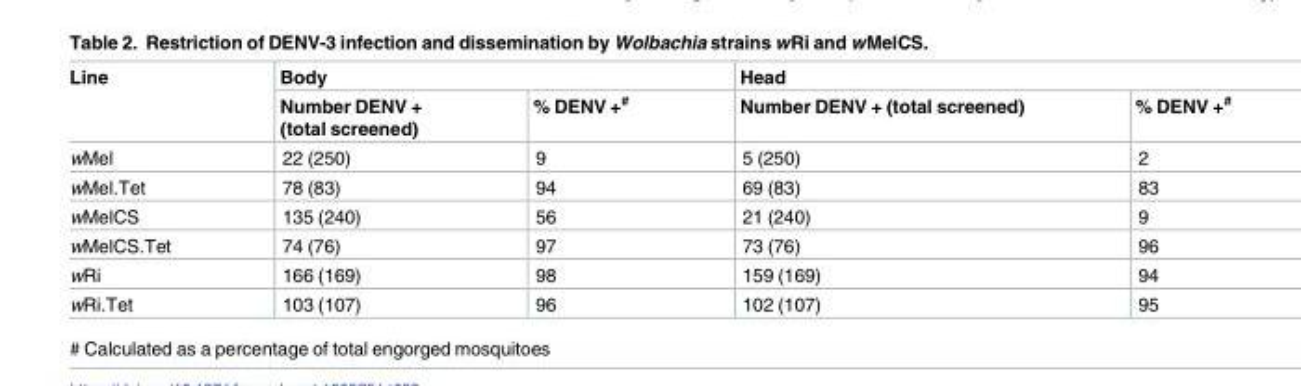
<table><thead><tr><td rowspan="2">Line</td><td colspan="2">Body</td><td colspan="2">Head</td></tr><tr><td>Number DENV + (total screened)</td><td>% DENV +<sup>#</sup></td><td>Number DENV + (total screened)</td><td>% DENV +<sup>#</sup></td></tr></thead><tbody><tr><td>wMel</td><td>22 (250)</td><td>9</td><td>5 (250)</td><td>2</td></tr><tr><td>wMel.Tet</td><td>78 (83)</td><td>94</td><td>69 (83)</td><td>83</td></tr><tr><td>wMelCS</td><td>135 (240)</td><td>56</td><td>21 (240)</td><td>9</td></tr><tr><td>wMelCS.Tet</td><td>74 (76)</td><td>97</td><td>73 (76)</td><td>96</td></tr><tr><td>wRi</td><td>166 (169)</td><td>98</td><td>159 (169)</td><td>94</td></tr><tr><td>wRi.Tet</td><td>103 (107)</td><td>96</td><td>102 (107)</td><td>95</td></tr></tbody></table>